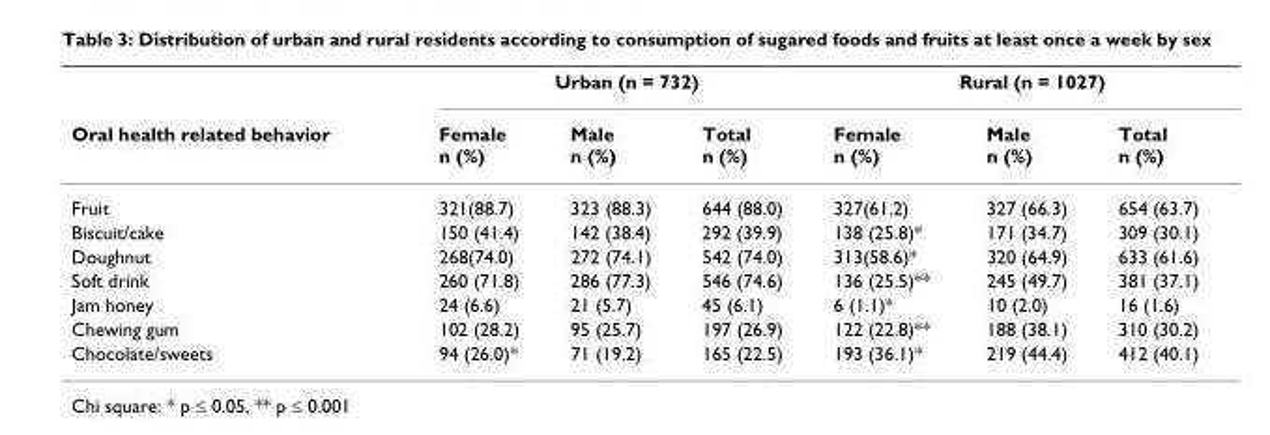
<table><thead><tr><td rowspan="2">Oral health related behavior</td><td colspan="3">Urban (n = 732)</td><td colspan="3">Rural (n = 1027)</td></tr><tr><td>Female n (%)</td><td>Male n (%)</td><td>Total n (%)</td><td>Female n (%)</td><td>Male n (%)</td><td>Total n (%)</td></tr></thead><tbody><tr><td>Fruit</td><td>321(88.7)</td><td>323 (88.3)</td><td>644 (88.0)</td><td>327(61.2)</td><td>327 (66.3)</td><td>654 (63.7)</td></tr><tr><td>Biscuit/cake</td><td>150 (41.4)</td><td>142 (38.4)</td><td>292 (39.9)</td><td>138 (25.8)*</td><td>171 (34.7)</td><td>309 (30.1)</td></tr><tr><td>Doughnut</td><td>268(74.0)</td><td>272 (74.1)</td><td>542 (74.0)</td><td>313(58.6)*</td><td>320 (64.9)</td><td>633 (61.6)</td></tr><tr><td>Soft drink</td><td>260 (71.8)</td><td>286 (77.3)</td><td>546 (74.6)</td><td>136 (25.5)**</td><td>245 (49.7)</td><td>381 (37.1)</td></tr><tr><td>Jam honey</td><td>24 (6.6)</td><td>21 (5.7)</td><td>45 (6.1)</td><td>6 (1.1)*</td><td>10 (2.0)</td><td>16 (1.6)</td></tr><tr><td>Chewing gum</td><td>102 (28.2)</td><td>95 (25.7)</td><td>197 (26.9)</td><td>122 (22.8)**</td><td>188 (38.1)</td><td>310 (30.2)</td></tr><tr><td>Chocolate/sweets</td><td>94 (26.0)*</td><td>71 (19.2)</td><td>165 (22.5)</td><td>193 (36.1)*</td><td>219 (44.4)</td><td>412 (40.1)</td></tr></tbody></table>